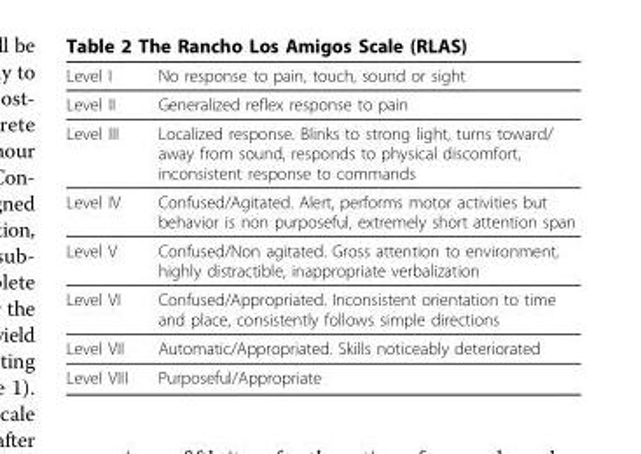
<table><thead><tr><td>Level I</td><td>No response to pain, touch, sound or sight</td></tr></thead><tbody><tr><td>Level II</td><td>Generalized reflex response to pain</td></tr><tr><td>Level III</td><td>Localized response. Blinks to strong light, turns toward/ away from sound, responds to physical discomfort, inconsistent response to commands</td></tr><tr><td>Level IV</td><td>Confused/Agitated. Alert, performs motor activities but behavior is non purposeful, extremely short attention span</td></tr><tr><td>Level V</td><td>Confused/Non agitated. Gross attention to environment, highly distractible, inappropriate verbalization</td></tr><tr><td>Level VI</td><td>Confused/Appropriated. Inconsistent orientation to time and place, consistently follows simple directions</td></tr><tr><td>Level VII</td><td>Automatic/Appropriated. Skills noticeably deteriorated</td></tr><tr><td>Level VIII</td><td>Purposeful/Appropriate</td></tr></tbody></table>